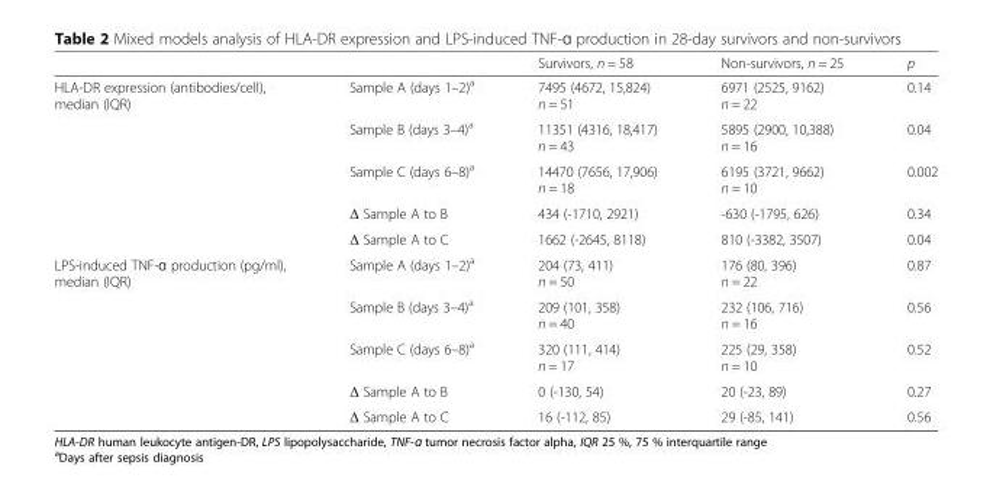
<table><thead><tr><td></td><td></td><td>Survivors, n = 58</td><td>Non-survivors, n = 25</td><td>p</td></tr></thead><tbody><tr><td rowspan="5">HLA-DR expression (antibodies/cell), median (IQR)</td><td>Sample A (days 1–2)<sup>a</sup></td><td>7495 (4672, 15,824) n = 51</td><td>6971 (2525, 9162) n = 22</td><td>0.14</td></tr><tr><td>Sample B (days 3–4)<sup>a</sup></td><td>11351 (4316, 18,417) n = 43</td><td>5895 (2900, 10,388) n = 16</td><td>0.04</td></tr><tr><td>Sample C (days 6–8)<sup>a</sup></td><td>14470 (7656, 17,906) n = 18</td><td>6195 (3721, 9662) n = 10</td><td>0.002</td></tr><tr><td>Δ Sample A to B</td><td>434 (-1710, 2921)</td><td>-630 (-1795, 626)</td><td>0.34</td></tr><tr><td>Δ Sample A to C</td><td>1662 (-2645, 8118)</td><td>810 (-3382, 3507)</td><td>0.04</td></tr><tr><td rowspan="5">LPS-induced TNF-ɑ production (pg/ml), median (IQR)</td><td>Sample A (days 1–2)<sup>a</sup></td><td>204 (73, 411) n = 50</td><td>176 (80, 396) n = 22</td><td>0.87</td></tr><tr><td>Sample B (days 3–4)<sup>a</sup></td><td>209 (101, 358) n = 40</td><td>232 (106, 716) n = 16</td><td>0.56</td></tr><tr><td>Sample C (days 6–8)<sup>a</sup></td><td>320 (111, 414) n = 17</td><td>225 (29, 358) n = 10</td><td>0.52</td></tr><tr><td>Δ Sample A to B</td><td>0 (-130, 54)</td><td>20 (-23, 89)</td><td>0.27</td></tr><tr><td>Δ Sample A to C</td><td>16 (-112, 85)</td><td>29 (-85, 141)</td><td>0.56</td></tr></tbody></table>